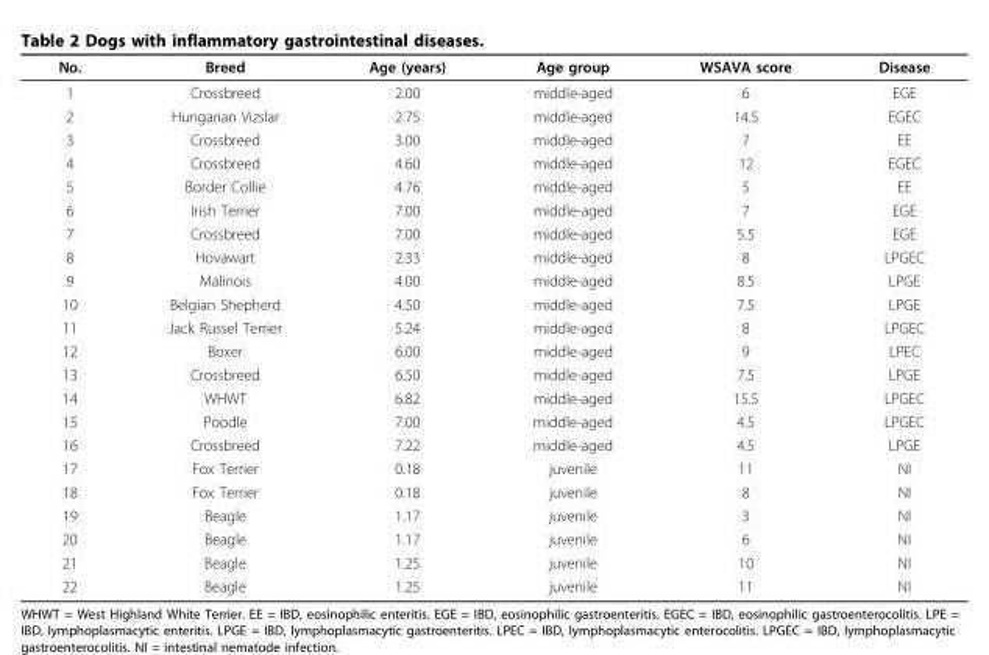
<table><thead><tr><td>No.</td><td>Breed</td><td>Age (years)</td><td>Age group</td><td>WSAVA score</td><td>Disease</td></tr></thead><tbody><tr><td>1</td><td>Crossbreed</td><td>2.00</td><td>middle-aged</td><td>6</td><td>EGE</td></tr><tr><td>2</td><td>Hungarian Vizslar</td><td>2.75</td><td>middle-aged</td><td>14.5</td><td>EGEC</td></tr><tr><td>3</td><td>Crossbreed</td><td>3.00</td><td>middle-aged</td><td>7</td><td>EE</td></tr><tr><td>4</td><td>Crossbreed</td><td>4.60</td><td>middle-aged</td><td>12</td><td>EGEC</td></tr><tr><td>5</td><td>Border Collie</td><td>4.76</td><td>middle-aged</td><td>5</td><td>EE</td></tr><tr><td>6</td><td>Irish Terrier</td><td>7.00</td><td>middle-aged</td><td>7</td><td>EGE</td></tr><tr><td>7</td><td>Crossbreed</td><td>7.00</td><td>middle-aged</td><td>5.5</td><td>EGE</td></tr><tr><td>8</td><td>Hovawart</td><td>2.33</td><td>middle-aged</td><td>8</td><td>LPGEC</td></tr><tr><td>9</td><td>Malinois</td><td>4.00</td><td>middle-aged</td><td>8.5</td><td>LPGE</td></tr><tr><td>10</td><td>Belgian Shepherd</td><td>4.50</td><td>middle-aged</td><td>7.5</td><td>LPGE</td></tr><tr><td>11</td><td>Jack Russel Terrier</td><td>5.24</td><td>middle-aged</td><td>8</td><td>LPGEC</td></tr><tr><td>12</td><td>Boxer</td><td>6.00</td><td>middle-aged</td><td>9</td><td>LPEC</td></tr><tr><td>13</td><td>Crossbreed</td><td>6.50</td><td>middle-aged</td><td>7.5</td><td>LPGE</td></tr><tr><td>14</td><td>WHWT</td><td>6.82</td><td>middle-aged</td><td>15.5</td><td>LPGEC</td></tr><tr><td>15</td><td>Poodle</td><td>7.00</td><td>middle-aged</td><td>4.5</td><td>LPGEC</td></tr><tr><td>16</td><td>Crossbreed</td><td>7.22</td><td>middle-aged</td><td>4.5</td><td>LPGE</td></tr><tr><td>17</td><td>Fox Terrier</td><td>0.18</td><td>juvenile</td><td>11</td><td>NI</td></tr><tr><td>18</td><td>Fox Terrier</td><td>0.18</td><td>juvenile</td><td>8</td><td>NI</td></tr><tr><td>19</td><td>Beagle</td><td>1.17</td><td>juvenile</td><td>3</td><td>NI</td></tr><tr><td>20</td><td>Beagle</td><td>1.17</td><td>juvenile</td><td>6</td><td>NI</td></tr><tr><td>21</td><td>Beagle</td><td>1.25</td><td>juvenile</td><td>10</td><td>NI</td></tr><tr><td>22</td><td>Beagle</td><td>1.25</td><td>juvenile</td><td>11</td><td>NI</td></tr></tbody></table>